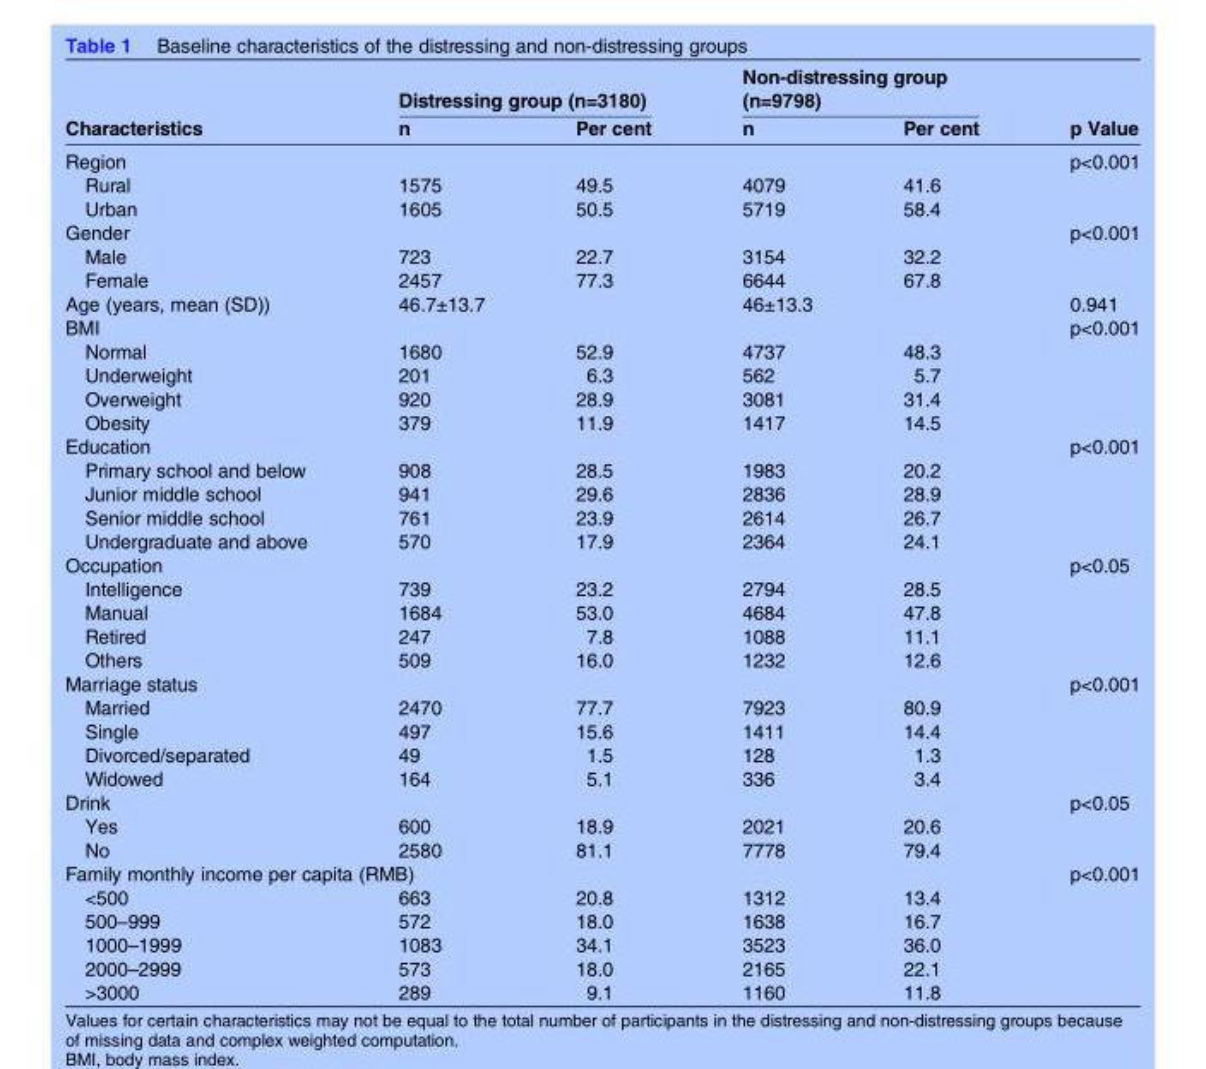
<table><thead><tr><td rowspan="2">Characteristics</td><td colspan="2">Distressing group (n=3180)</td><td colspan="2">Non-distressing group (n=9798)</td><td rowspan="2">p Value</td></tr><tr><td>n</td><td>Per cent</td><td>n</td><td>Per cent</td></tr></thead><tbody><tr><td colspan="5">Region</td><td rowspan="3">p&lt;0.001</td></tr><tr><td>Rural</td><td>1575</td><td>49.5</td><td>4079</td><td>41.6</td></tr><tr><td>Urban</td><td>1605</td><td>50.5</td><td>5719</td><td>58.4</td></tr><tr><td colspan="5">Gender</td><td rowspan="3">p&lt;0.001</td></tr><tr><td>Male</td><td>723</td><td>22.7</td><td>3154</td><td>32.2</td></tr><tr><td>Female</td><td>2457</td><td>77.3</td><td>6644</td><td>67.8</td></tr><tr><td>Age (years, mean (SD))</td><td>46.7±13.7</td><td></td><td>46±13.3</td><td></td><td>0.941</td></tr><tr><td colspan="5">BMI</td><td rowspan="5">p&lt;0.001</td></tr><tr><td>Normal</td><td>1680</td><td>52.9</td><td>4737</td><td>48.3</td></tr><tr><td>Underweight</td><td>201</td><td>6.3</td><td>562</td><td>5.7</td></tr><tr><td>Overweight</td><td>920</td><td>28.9</td><td>3081</td><td>31.4</td></tr><tr><td>Obesity</td><td>379</td><td>11.9</td><td>1417</td><td>14.5</td></tr><tr><td colspan="5">Education</td><td rowspan="5">p&lt;0.001</td></tr><tr><td>Primary school and below</td><td>908</td><td>28.5</td><td>1983</td><td>20.2</td></tr><tr><td>Junior middle school</td><td>941</td><td>29.6</td><td>2836</td><td>28.9</td></tr><tr><td>Senior middle school</td><td>761</td><td>23.9</td><td>2614</td><td>26.7</td></tr><tr><td>Undergraduate and above</td><td>570</td><td>17.9</td><td>2364</td><td>24.1</td></tr><tr><td colspan="5">Occupation</td><td rowspan="5">p&lt;0.05</td></tr><tr><td>Intelligence</td><td>739</td><td>23.2</td><td>2794</td><td>28.5</td></tr><tr><td>Manual</td><td>1684</td><td>53.0</td><td>4684</td><td>47.8</td></tr><tr><td>Retired</td><td>247</td><td>7.8</td><td>1088</td><td>11.1</td></tr><tr><td>Others</td><td>509</td><td>16.0</td><td>1232</td><td>12.6</td></tr><tr><td colspan="5">Marriage status</td><td rowspan="5">p&lt;0.001</td></tr><tr><td>Married</td><td>2470</td><td>77.7</td><td>7923</td><td>80.9</td></tr><tr><td>Single</td><td>497</td><td>15.6</td><td>1411</td><td>14.4</td></tr><tr><td>Divorced/separated</td><td>49</td><td>1.5</td><td>128</td><td>1.3</td></tr><tr><td>Widowed</td><td>164</td><td>5.1</td><td>336</td><td>3.4</td></tr><tr><td colspan="5">Drink</td><td rowspan="3">p&lt;0.05</td></tr><tr><td>Yes</td><td>600</td><td>18.9</td><td>2021</td><td>20.6</td></tr><tr><td>No</td><td>2580</td><td>81.1</td><td>7778</td><td>79.4</td></tr><tr><td colspan="5">Family monthly income per capita (RMB)</td><td rowspan="6">p&lt;0.001</td></tr><tr><td>&lt;500</td><td>663</td><td>20.8</td><td>1312</td><td>13.4</td></tr><tr><td>500–999</td><td>572</td><td>18.0</td><td>1638</td><td>16.7</td></tr><tr><td>1000–1999</td><td>1083</td><td>34.1</td><td>3523</td><td>36.0</td></tr><tr><td>2000–2999</td><td>573</td><td>18.0</td><td>2165</td><td>22.1</td></tr><tr><td>&gt;3000</td><td>289</td><td>9.1</td><td>1160</td><td>11.8</td></tr></tbody></table>